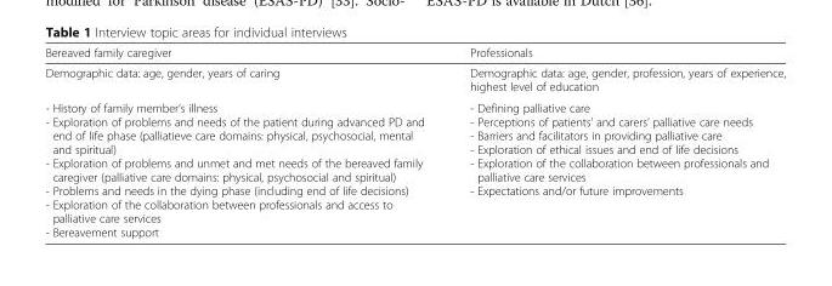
<table><thead><tr><td>Bereaved family caregiver</td><td>Professionals</td></tr></thead><tbody><tr><td>Demographic data: age, gender, years of caring</td><td>Demographic data: age, gender, profession, years of experience, highest level of education</td></tr><tr><td>- History of family member’s illness - Exploration of problems and needs of the patient during advanced PD and end of life phase (palliatieve care domains: physical, psychosocial, mental and spiritual) - Exploration of problems and unmet and met needs of the bereaved family caregiver (palliative care domains: physical, psychosocial and spiritual) - Problems and needs in the dying phase (including end of life decisions) - Exploration of the collaboration between professionals and access to palliative care services - Bereavement support</td><td>- Defining palliative care - Perceptions of patients’ and carers’ palliative care needs - Barriers and facilitators in providing palliative care - Exploration of ethical issues and end of life decisions - Exploration of the collaboration between professionals and palliative care services - Expectations and/or future improvements</td></tr></tbody></table>